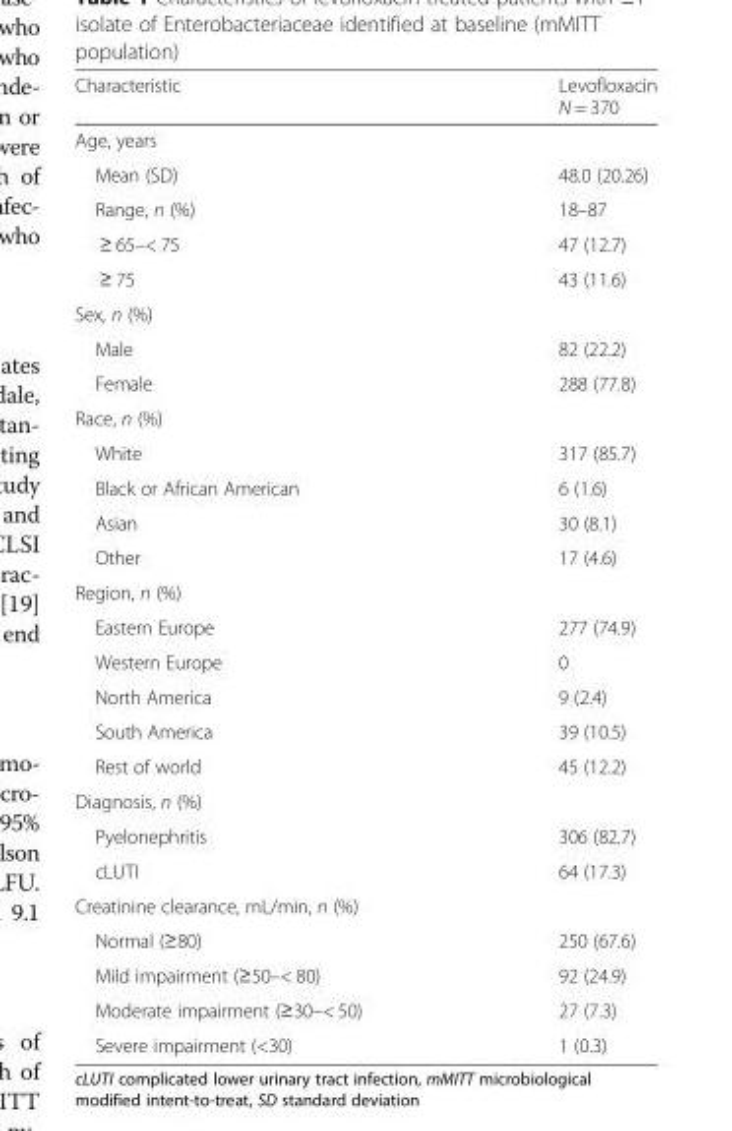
<table><thead><tr><td>Characteristic</td><td>Levofloxacin N = 370</td></tr></thead><tbody><tr><td colspan="2">Age, years</td></tr><tr><td>Mean (SD)</td><td>48.0 (20.26)</td></tr><tr><td>Range, n (%)</td><td>18–87</td></tr><tr><td>≥ 65–&lt; 75</td><td>47 (12.7)</td></tr><tr><td>≥ 75</td><td>43 (11.6)</td></tr><tr><td colspan="2">Sex, n (%)</td></tr><tr><td>Male</td><td>82 (22.2)</td></tr><tr><td>Female</td><td>288 (77.8)</td></tr><tr><td colspan="2">Race, n (%)</td></tr><tr><td>White</td><td>317 (85.7)</td></tr><tr><td>Black or African American</td><td>6 (1.6)</td></tr><tr><td>Asian</td><td>30 (8.1)</td></tr><tr><td>Other</td><td>17 (4.6)</td></tr><tr><td colspan="2">Region, n (%)</td></tr><tr><td>Eastern Europe</td><td>277 (74.9)</td></tr><tr><td>Western Europe</td><td>0</td></tr><tr><td>North America</td><td>9 (2.4)</td></tr><tr><td>South America</td><td>39 (10.5)</td></tr><tr><td>Rest of world</td><td>45 (12.2)</td></tr><tr><td colspan="2">Diagnosis, n (%)</td></tr><tr><td>Pyelonephritis</td><td>306 (82.7)</td></tr><tr><td>cLUTI</td><td>64 (17.3)</td></tr><tr><td colspan="2">Creatinine clearance, mL/min, n (%)</td></tr><tr><td>Normal (≥80)</td><td>250 (67.6)</td></tr><tr><td>Mild impairment (≥50–&lt; 80)</td><td>92 (24.9)</td></tr><tr><td>Moderate impairment (≥30–&lt; 50)</td><td>27 (7.3)</td></tr><tr><td>Severe impairment (&lt;30)</td><td>1 (0.3)</td></tr></tbody></table>